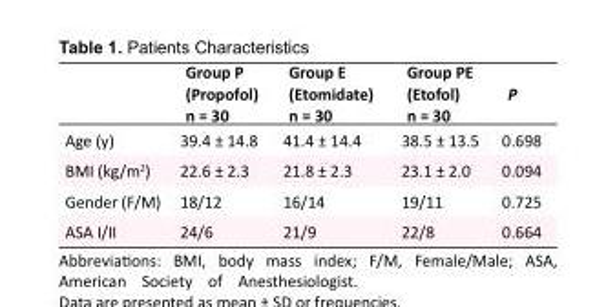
<table><thead><tr><td></td><td>Group P (Propofol) n = 30</td><td>Group E (Etomidate) n = 30</td><td>Group PE (Etofol) n = 30</td><td>P</td></tr></thead><tbody><tr><td>Age (y)</td><td>39.4 ± 14.8</td><td>41.4 ± 14.4</td><td>38.5 ± 13.5</td><td>0.698</td></tr><tr><td>BMI (kg/m<sup>2</sup>)</td><td>22.6 ± 2.3</td><td>21.8 ± 2.3</td><td>23.1 ± 2.0</td><td>0.094</td></tr><tr><td>Gender (F/M)</td><td>18/12</td><td>16/14</td><td>19/11</td><td>0.725</td></tr><tr><td>ASA I/II</td><td>24/6</td><td>21/9</td><td>22/8</td><td>0.664</td></tr></tbody></table>